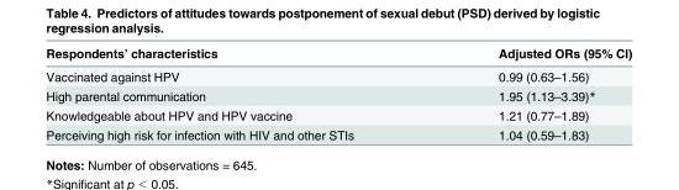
<table><thead><tr><td>Respondents’ characteristics</td><td>Adjusted ORs (95% CI)</td></tr></thead><tbody><tr><td>Vaccinated against HPV</td><td>0.99 (0.63–1.56)</td></tr><tr><td>High parental communication</td><td>1.95 (1.13–3.39)*</td></tr><tr><td>Knowledgeable about HPV and HPV vaccine</td><td>1.21 (0.77–1.89)</td></tr><tr><td>Perceiving high risk for infection with HIV and other STIs</td><td>1.04 (0.59–1.83)</td></tr></tbody></table>